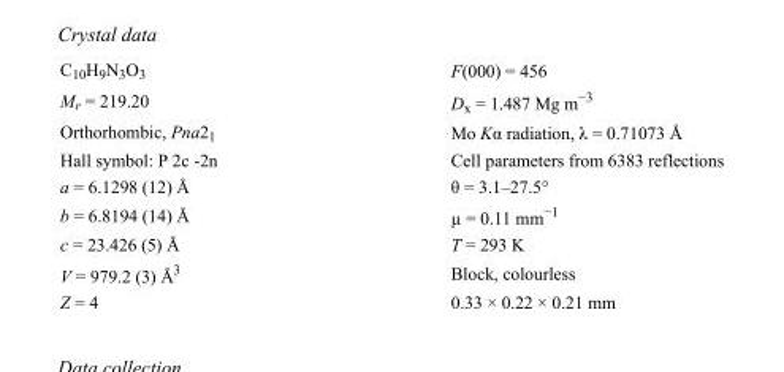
<table><tbody><tr><td>C<sub>10</sub>H<sub>9</sub>N<sub>3</sub>O<sub>3</sub></td><td>F(000) = 456</td></tr><tr><td>M<sub>r</sub> = 219.20</td><td>D<sub>x</sub> = 1.487 Mg m<sup>−3</sup></td></tr><tr><td>Orthorhombic, Pna2<sub>1</sub></td><td>Mo Kα radiation, λ = 0.71073 Å</td></tr><tr><td>Hall symbol: P 2c -2n</td><td>Cell parameters from 6383 reflections</td></tr><tr><td>a = 6.1298 (12) Å</td><td>θ = 3.1–27.5°</td></tr><tr><td>b = 6.8194 (14) Å</td><td>µ = 0.11 mm<sup>−1</sup></td></tr><tr><td>c = 23.426 (5) Å</td><td>T = 293 K</td></tr><tr><td>V = 979.2 (3) Å<sup>3</sup></td><td>Block, colourless</td></tr><tr><td>Z = 4</td><td>0.33 × 0.22 × 0.21 mm</td></tr></tbody></table>